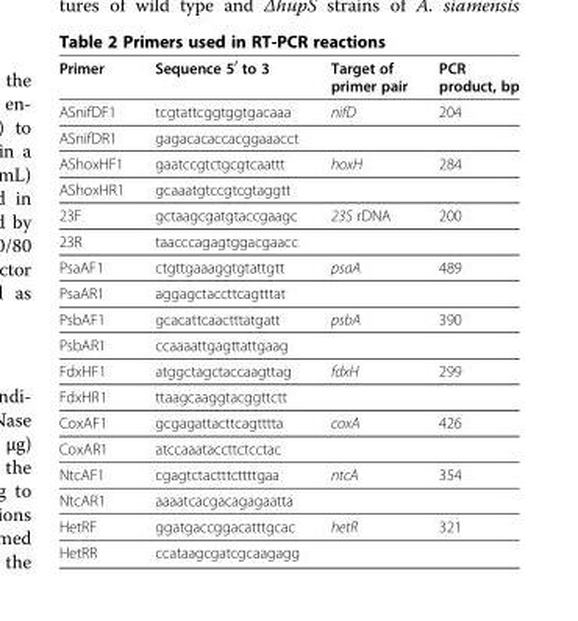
<table><thead><tr><td>Primer</td><td>Sequence 5<sup>′</sup> to 3</td><td>Target of primer pair</td><td>PCR product, bp</td></tr></thead><tbody><tr><td>ASnifDF1</td><td>tcgtattcggtggtgacaaa</td><td>nifD</td><td>204</td></tr><tr><td>ASnifDR1</td><td>gagacacaccacggaaacct</td><td></td><td></td></tr><tr><td>AShoxHF1</td><td>gaatccgtctgcgtcaattt</td><td>hoxH</td><td>284</td></tr><tr><td>AShoxHR1</td><td>gcaaatgtccgtcgtaggtt</td><td></td><td></td></tr><tr><td>23F</td><td>gctaagcgatgtaccgaagc</td><td>23S rDNA</td><td>200</td></tr><tr><td>23R</td><td>taacccagagtggacgaacc</td><td></td><td></td></tr><tr><td>PsaAF1</td><td>ctgttgaaaggtgtattgtt</td><td>psaA</td><td>489</td></tr><tr><td>PsaAR1</td><td>aggagctaccttcagtttat</td><td></td><td></td></tr><tr><td>PsbAF1</td><td>gcacattcaactttatgatt</td><td>psbA</td><td>390</td></tr><tr><td>PsbAR1</td><td>ccaaaattgagttattgaag</td><td></td><td></td></tr><tr><td>FdxHF1</td><td>atggctagctaccaagttag</td><td>fdxH</td><td>299</td></tr><tr><td>FdxHR1</td><td>ttaagcaaggtacggttctt</td><td></td><td></td></tr><tr><td>CoxAF1</td><td>gcgagattacttcagtttta</td><td>coxA</td><td>426</td></tr><tr><td>CoxAR1</td><td>atccaaataccttctcctac</td><td></td><td></td></tr><tr><td>NtcAF1</td><td>cgagtctactttcttttgaa</td><td>ntcA</td><td>354</td></tr><tr><td>NtcAR1</td><td>aaaatcacgacagagaatta</td><td></td><td></td></tr><tr><td>HetRF</td><td>ggatgaccggacatttgcac</td><td>hetR</td><td>321</td></tr><tr><td>HetRR</td><td>ccataagcgatcgcaagagg</td><td></td><td></td></tr></tbody></table>